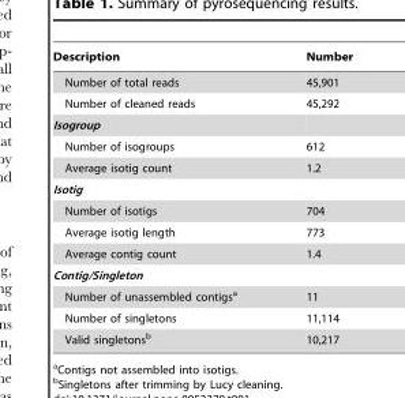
<table><thead><tr><td>Description</td><td>Number</td></tr></thead><tbody><tr><td>Number of total reads</td><td>45,901</td></tr><tr><td>Number of cleaned reads</td><td>45,292</td></tr><tr><td colspan="2">Isogroup</td></tr><tr><td>Number of isogroups</td><td>612</td></tr><tr><td>Average isotig count</td><td>1.2</td></tr><tr><td colspan="2">Isotig</td></tr><tr><td>Number of isotigs</td><td>704</td></tr><tr><td>Average isotig length</td><td>773</td></tr><tr><td>Average contig count</td><td>1.4</td></tr><tr><td colspan="2">Contig/Singleton</td></tr><tr><td>Number of unassembled contigs<sup>a</sup></td><td>11</td></tr><tr><td>Number of singletons</td><td>11,114</td></tr><tr><td>Valid singletons<sup>b</sup></td><td>10,217</td></tr></tbody></table>